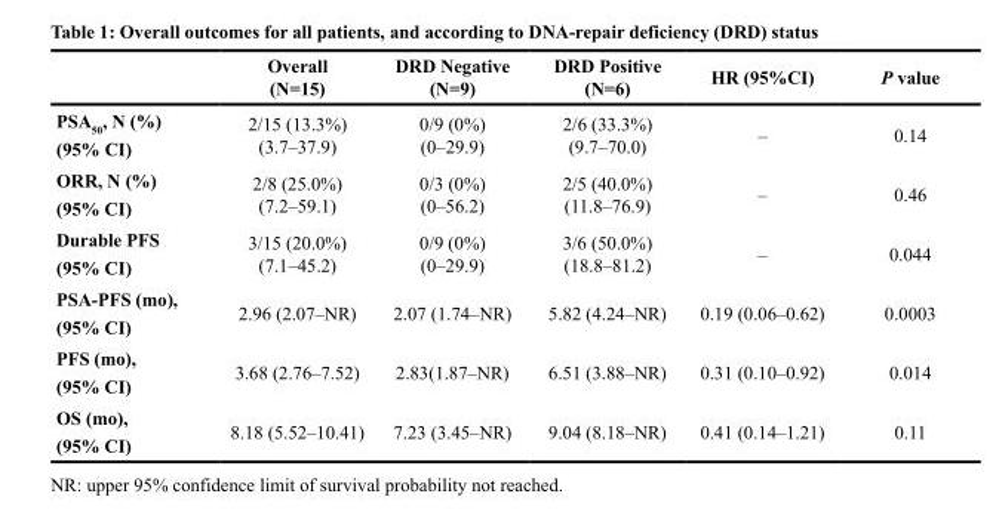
<table><thead><tr><td></td><td>Overall (N=15)</td><td>DRD Negative (N=9)</td><td>DRD Positive (N=6)</td><td>HR (95%CI)</td><td>P value</td></tr></thead><tbody><tr><td>PSA<sub>50</sub>, N (%) (95% CI)</td><td>2/15 (13.3%) (3.7–37.9)</td><td>0/9 (0%) (0–29.9)</td><td>2/6 (33.3%) (9.7–70.0)</td><td>–</td><td>0.14</td></tr><tr><td>ORR, N (%) (95% CI)</td><td>2/8 (25.0%) (7.2–59.1)</td><td>0/3 (0%) (0–56.2)</td><td>2/5 (40.0%) (11.8–76.9)</td><td>–</td><td>0.46</td></tr><tr><td>Durable PFS (95% CI)</td><td>3/15 (20.0%) (7.1–45.2)</td><td>0/9 (0%) (0–29.9)</td><td>3/6 (50.0%) (18.8–81.2)</td><td>–</td><td>0.044</td></tr><tr><td>PSA-PFS (mo), (95% CI)</td><td>2.96 (2.07–NR)</td><td>2.07 (1.74–NR)</td><td>5.82 (4.24–NR)</td><td>0.19 (0.06–0.62)</td><td>0.0003</td></tr><tr><td>PFS (mo), (95% CI)</td><td>3.68 (2.76–7.52)</td><td>2.83(1.87–NR)</td><td>6.51 (3.88–NR)</td><td>0.31 (0.10–0.92)</td><td>0.014</td></tr><tr><td>OS (mo), (95% CI)</td><td>8.18 (5.52–10.41)</td><td>7.23 (3.45–NR)</td><td>9.04 (8.18–NR)</td><td>0.41 (0.14–1.21)</td><td>0.11</td></tr></tbody></table>